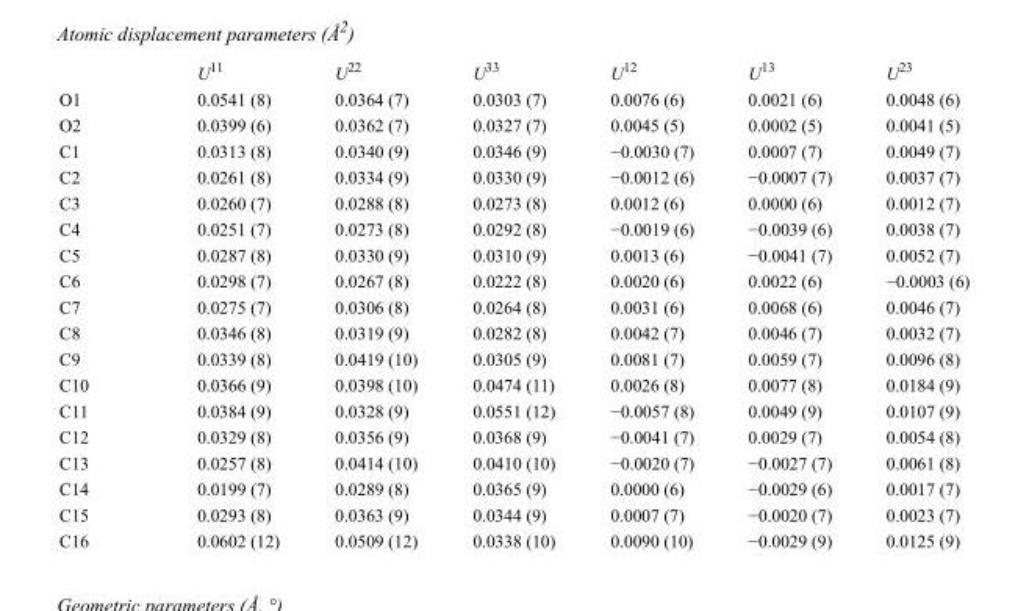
<table><thead><tr><td></td><td>U<sup>11</sup></td><td>U<sup>22</sup></td><td>U<sup>33</sup></td><td>U<sup>12</sup></td><td>U<sup>13</sup></td><td>U<sup>23</sup></td></tr></thead><tbody><tr><td>O1</td><td>0.0541 (8)</td><td>0.0364 (7)</td><td>0.0303 (7)</td><td>0.0076 (6)</td><td>0.0021 (6)</td><td>0.0048 (6)</td></tr><tr><td>O2</td><td>0.0399 (6)</td><td>0.0362 (7)</td><td>0.0327 (7)</td><td>0.0045 (5)</td><td>0.0002 (5)</td><td>0.0041 (5)</td></tr><tr><td>C1</td><td>0.0313 (8)</td><td>0.0340 (9)</td><td>0.0346 (9)</td><td>−0.0030 (7)</td><td>0.0007 (7)</td><td>0.0049 (7)</td></tr><tr><td>C2</td><td>0.0261 (8)</td><td>0.0334 (9)</td><td>0.0330 (9)</td><td>−0.0012 (6)</td><td>−0.0007 (7)</td><td>0.0037 (7)</td></tr><tr><td>C3</td><td>0.0260 (7)</td><td>0.0288 (8)</td><td>0.0273 (8)</td><td>0.0012 (6)</td><td>0.0000 (6)</td><td>0.0012 (7)</td></tr><tr><td>C4</td><td>0.0251 (7)</td><td>0.0273 (8)</td><td>0.0292 (8)</td><td>−0.0019 (6)</td><td>−0.0039 (6)</td><td>0.0038 (7)</td></tr><tr><td>C5</td><td>0.0287 (8)</td><td>0.0330 (9)</td><td>0.0310 (9)</td><td>0.0013 (6)</td><td>−0.0041 (7)</td><td>0.0052 (7)</td></tr><tr><td>C6</td><td>0.0298 (7)</td><td>0.0267 (8)</td><td>0.0222 (8)</td><td>0.0020 (6)</td><td>0.0022 (6)</td><td>−0.0003 (6)</td></tr><tr><td>C7</td><td>0.0275 (7)</td><td>0.0306 (8)</td><td>0.0264 (8)</td><td>0.0031 (6)</td><td>0.0068 (6)</td><td>0.0046 (7)</td></tr><tr><td>C8</td><td>0.0346 (8)</td><td>0.0319 (9)</td><td>0.0282 (8)</td><td>0.0042 (7)</td><td>0.0046 (7)</td><td>0.0032 (7)</td></tr><tr><td>C9</td><td>0.0339 (8)</td><td>0.0419 (10)</td><td>0.0305 (9)</td><td>0.0081 (7)</td><td>0.0059 (7)</td><td>0.0096 (8)</td></tr><tr><td>C10</td><td>0.0366 (9)</td><td>0.0398 (10)</td><td>0.0474 (11)</td><td>0.0026 (8)</td><td>0.0077 (8)</td><td>0.0184 (9)</td></tr><tr><td>C11</td><td>0.0384 (9)</td><td>0.0328 (9)</td><td>0.0551 (12)</td><td>−0.0057 (8)</td><td>0.0049 (9)</td><td>0.0107 (9)</td></tr><tr><td>C12</td><td>0.0329 (8)</td><td>0.0356 (9)</td><td>0.0368 (9)</td><td>−0.0041 (7)</td><td>0.0029 (7)</td><td>0.0054 (8)</td></tr><tr><td>C13</td><td>0.0257 (8)</td><td>0.0414 (10)</td><td>0.0410 (10)</td><td>−0.0020 (7)</td><td>−0.0027 (7)</td><td>0.0061 (8)</td></tr><tr><td>C14</td><td>0.0199 (7)</td><td>0.0289 (8)</td><td>0.0365 (9)</td><td>0.0000 (6)</td><td>−0.0029 (6)</td><td>0.0017 (7)</td></tr><tr><td>C15</td><td>0.0293 (8)</td><td>0.0363 (9)</td><td>0.0344 (9)</td><td>0.0007 (7)</td><td>−0.0020 (7)</td><td>0.0023 (7)</td></tr><tr><td>C16</td><td>0.0602 (12)</td><td>0.0509 (12)</td><td>0.0338 (10)</td><td>0.0090 (10)</td><td>−0.0029 (9)</td><td>0.0125 (9)</td></tr></tbody></table>